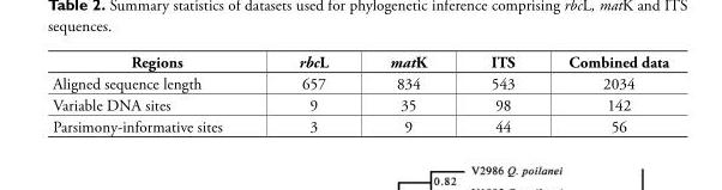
<table><thead><tr><td>Regions</td><td>rbcL</td><td>matK</td><td>ITS</td><td>Combined data</td></tr></thead><tbody><tr><td>Aligned sequence length</td><td>657</td><td>834</td><td>543</td><td>2034</td></tr><tr><td>Variable DNA sites</td><td>9</td><td>35</td><td>98</td><td>142</td></tr><tr><td>Parsimony-informative sites</td><td>3</td><td>9</td><td>44</td><td>56</td></tr></tbody></table>